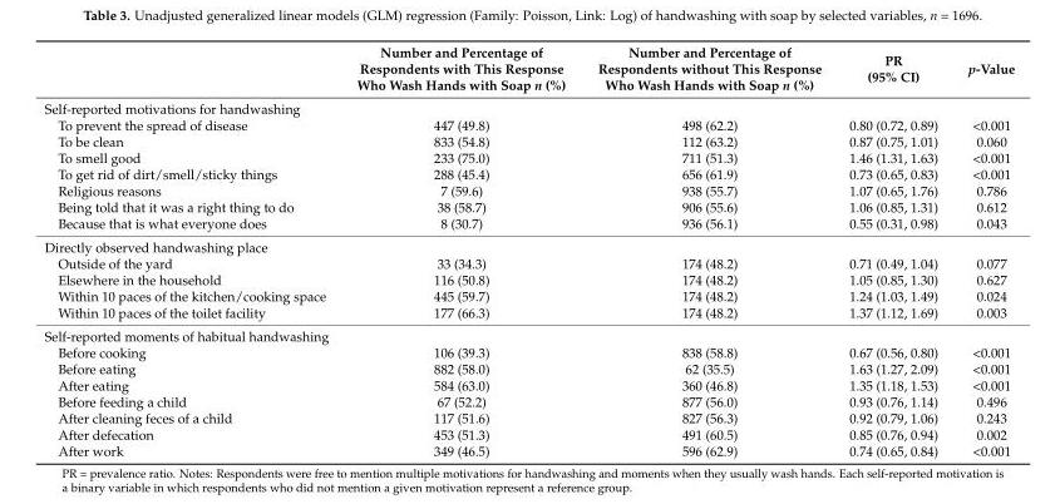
<table><thead><tr><td></td><td>Number and Percentage of Respondents with This Response Who Wash Hands with Soap n (%)</td><td>Number and Percentage of Respondents without This Response Who Wash Hands with Soap n (%)</td><td>PR (95% CI)</td><td>p-Value</td></tr></thead><tbody><tr><td colspan="5">Self-reported motivations for handwashing</td></tr><tr><td>To prevent the spread of disease</td><td>447 (49.8)</td><td>498 (62.2)</td><td>0.80 (0.72, 0.89)</td><td>&lt;0.001</td></tr><tr><td>To be clean</td><td>833 (54.8)</td><td>112 (63.2)</td><td>0.87 (0.75, 1.01)</td><td>0.060</td></tr><tr><td>To smell good</td><td>233 (75.0)</td><td>711 (51.3)</td><td>1.46 (1.31, 1.63)</td><td>&lt;0.001</td></tr><tr><td>To get rid of dirt/smell/sticky things</td><td>288 (45.4)</td><td>656 (61.9)</td><td>0.73 (0.65, 0.83)</td><td>&lt;0.001</td></tr><tr><td>Religious reasons</td><td>7 (59.6)</td><td>938 (55.7)</td><td>1.07 (0.65, 1.76)</td><td>0.786</td></tr><tr><td>Being told that it was a right thing to do</td><td>38 (58.7)</td><td>906 (55.6)</td><td>1.06 (0.85, 1.31)</td><td>0.612</td></tr><tr><td>Because that is what everyone does</td><td>8 (30.7)</td><td>936 (56.1)</td><td>0.55 (0.31, 0.98)</td><td>0.043</td></tr><tr><td colspan="5">Directly observed handwashing place</td></tr><tr><td>Outside of the yard</td><td>33 (34.3)</td><td>174 (48.2)</td><td>0.71 (0.49, 1.04)</td><td>0.077</td></tr><tr><td>Elsewhere in the household</td><td>116 (50.8)</td><td>174 (48.2)</td><td>1.05 (0.85, 1.30)</td><td>0.627</td></tr><tr><td>Within 10 paces of the kitchen/cooking space</td><td>445 (59.7)</td><td>174 (48.2)</td><td>1.24 (1.03, 1.49)</td><td>0.024</td></tr><tr><td>Within 10 paces of the toilet facility</td><td>177 (66.3)</td><td>174 (48.2)</td><td>1.37 (1.12, 1.69)</td><td>0.003</td></tr><tr><td colspan="5">Self-reported moments of habitual handwashing</td></tr><tr><td>Before cooking</td><td>106 (39.3)</td><td>838 (58.8)</td><td>0.67 (0.56, 0.80)</td><td>&lt;0.001</td></tr><tr><td>Before eating</td><td>882 (58.0)</td><td>62 (35.5)</td><td>1.63 (1.27, 2.09)</td><td>&lt;0.001</td></tr><tr><td>After eating</td><td>584 (63.0)</td><td>360 (46.8)</td><td>1.35 (1.18, 1.53)</td><td>&lt;0.001</td></tr><tr><td>Before feeding a child</td><td>67 (52.2)</td><td>877 (56.0)</td><td>0.93 (0.76, 1.14)</td><td>0.496</td></tr><tr><td>After cleaning feces of a child</td><td>117 (51.6)</td><td>827 (56.3)</td><td>0.92 (0.79, 1.06)</td><td>0.243</td></tr><tr><td>After defecation</td><td>453 (51.3)</td><td>491 (60.5)</td><td>0.85 (0.76, 0.94)</td><td>0.002</td></tr><tr><td>After work</td><td>349 (46.5)</td><td>596 (62.9)</td><td>0.74 (0.65, 0.84)</td><td>&lt;0.001</td></tr></tbody></table>